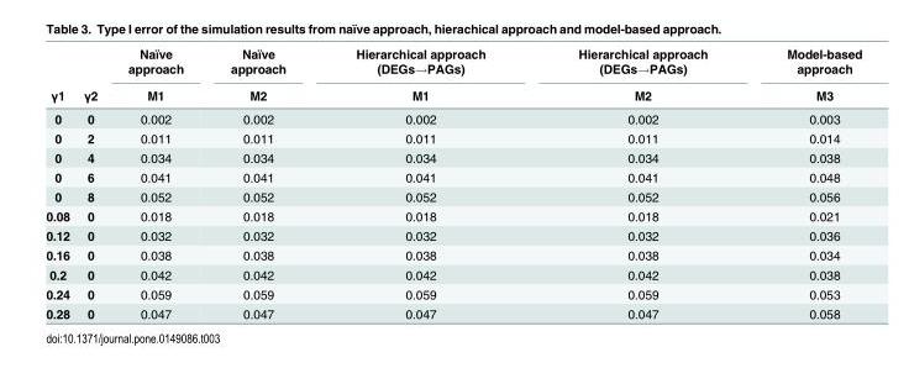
<table><thead><tr><td rowspan="2">γ1</td><td rowspan="2">γ2</td><td rowspan="2">Naïve approach M1</td><td rowspan="2">Naïve approach M2</td><td rowspan="2">Hierarchical approach (DEGs→PAGs) M1</td><td rowspan="2">Hierarchical approach (DEGs→PAGs) M2</td><td rowspan="2">Model-based approach M3</td></tr><tr></tr></thead><tbody><tr><td>0</td><td>0</td><td>0.002</td><td>0.002</td><td>0.002</td><td>0.002</td><td>0.003</td></tr><tr><td>0</td><td>2</td><td>0.011</td><td>0.011</td><td>0.011</td><td>0.011</td><td>0.014</td></tr><tr><td>0</td><td>4</td><td>0.034</td><td>0.034</td><td>0.034</td><td>0.034</td><td>0.038</td></tr><tr><td>0</td><td>6</td><td>0.041</td><td>0.041</td><td>0.041</td><td>0.041</td><td>0.048</td></tr><tr><td>0</td><td>8</td><td>0.052</td><td>0.052</td><td>0.052</td><td>0.052</td><td>0.056</td></tr><tr><td>0.08</td><td>0</td><td>0.018</td><td>0.018</td><td>0.018</td><td>0.018</td><td>0.021</td></tr><tr><td>0.12</td><td>0</td><td>0.032</td><td>0.032</td><td>0.032</td><td>0.032</td><td>0.036</td></tr><tr><td>0.16</td><td>0</td><td>0.038</td><td>0.038</td><td>0.038</td><td>0.038</td><td>0.034</td></tr><tr><td>0.2</td><td>0</td><td>0.042</td><td>0.042</td><td>0.042</td><td>0.042</td><td>0.038</td></tr><tr><td>0.24</td><td>0</td><td>0.059</td><td>0.059</td><td>0.059</td><td>0.059</td><td>0.053</td></tr><tr><td>0.28</td><td>0</td><td>0.047</td><td>0.047</td><td>0.047</td><td>0.047</td><td>0.058</td></tr></tbody></table>